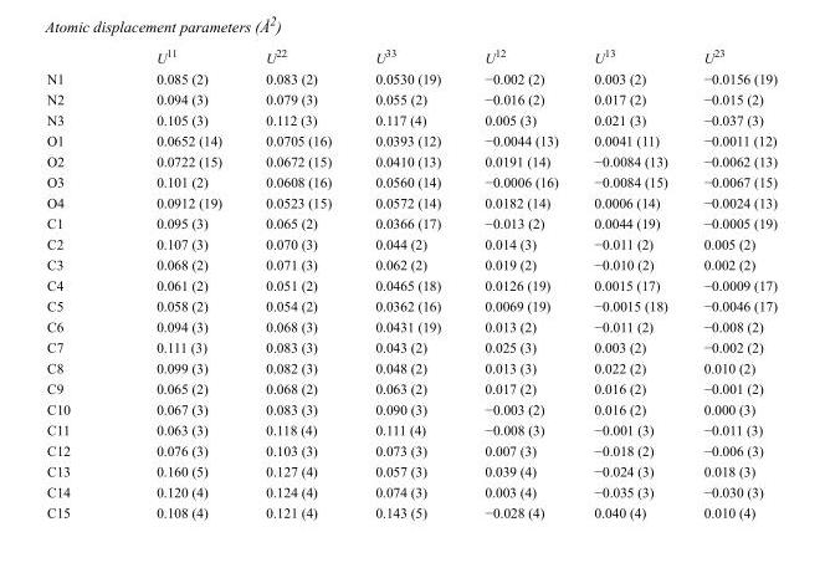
<table><thead><tr><td></td><td>U<sup>11</sup></td><td>U<sup>22</sup></td><td>U<sup>33</sup></td><td>U<sup>12</sup></td><td>U<sup>13</sup></td><td>U<sup>23</sup></td></tr></thead><tbody><tr><td>N1</td><td>0.085 (2)</td><td>0.083 (2)</td><td>0.0530 (19)</td><td>−0.002 (2)</td><td>0.003 (2)</td><td>−0.0156 (19)</td></tr><tr><td>N2</td><td>0.094 (3)</td><td>0.079 (3)</td><td>0.055 (2)</td><td>−0.016 (2)</td><td>0.017 (2)</td><td>−0.015 (2)</td></tr><tr><td>N3</td><td>0.105 (3)</td><td>0.112 (3)</td><td>0.117 (4)</td><td>0.005 (3)</td><td>0.021 (3)</td><td>−0.037 (3)</td></tr><tr><td>O1</td><td>0.0652 (14)</td><td>0.0705 (16)</td><td>0.0393 (12)</td><td>−0.0044 (13)</td><td>0.0041 (11)</td><td>−0.0011 (12)</td></tr><tr><td>O2</td><td>0.0722 (15)</td><td>0.0672 (15)</td><td>0.0410 (13)</td><td>0.0191 (14)</td><td>−0.0084 (13)</td><td>−0.0062 (13)</td></tr><tr><td>O3</td><td>0.101 (2)</td><td>0.0608 (16)</td><td>0.0560 (14)</td><td>−0.0006 (16)</td><td>−0.0084 (15)</td><td>−0.0067 (15)</td></tr><tr><td>O4</td><td>0.0912 (19)</td><td>0.0523 (15)</td><td>0.0572 (14)</td><td>0.0182 (14)</td><td>0.0006 (14)</td><td>−0.0024 (13)</td></tr><tr><td>C1</td><td>0.095 (3)</td><td>0.065 (2)</td><td>0.0366 (17)</td><td>−0.013 (2)</td><td>0.0044 (19)</td><td>−0.0005 (19)</td></tr><tr><td>C2</td><td>0.107 (3)</td><td>0.070 (3)</td><td>0.044 (2)</td><td>0.014 (3)</td><td>−0.011 (2)</td><td>0.005 (2)</td></tr><tr><td>C3</td><td>0.068 (2)</td><td>0.071 (3)</td><td>0.062 (2)</td><td>0.019 (2)</td><td>−0.010 (2)</td><td>0.002 (2)</td></tr><tr><td>C4</td><td>0.061 (2)</td><td>0.051 (2)</td><td>0.0465 (18)</td><td>0.0126 (19)</td><td>0.0015 (17)</td><td>−0.0009 (17)</td></tr><tr><td>C5</td><td>0.058 (2)</td><td>0.054 (2)</td><td>0.0362 (16)</td><td>0.0069 (19)</td><td>−0.0015 (18)</td><td>−0.0046 (17)</td></tr><tr><td>C6</td><td>0.094 (3)</td><td>0.068 (3)</td><td>0.0431 (19)</td><td>0.013 (2)</td><td>−0.011 (2)</td><td>−0.008 (2)</td></tr><tr><td>C7</td><td>0.111 (3)</td><td>0.083 (3)</td><td>0.043 (2)</td><td>0.025 (3)</td><td>0.003 (2)</td><td>−0.002 (2)</td></tr><tr><td>C8</td><td>0.099 (3)</td><td>0.082 (3)</td><td>0.048 (2)</td><td>0.013 (3)</td><td>0.022 (2)</td><td>0.010 (2)</td></tr><tr><td>C9</td><td>0.065 (2)</td><td>0.068 (2)</td><td>0.063 (2)</td><td>0.017 (2)</td><td>0.016 (2)</td><td>−0.001 (2)</td></tr><tr><td>C10</td><td>0.067 (3)</td><td>0.083 (3)</td><td>0.090 (3)</td><td>−0.003 (2)</td><td>0.016 (2)</td><td>0.000 (3)</td></tr><tr><td>C11</td><td>0.063 (3)</td><td>0.118 (4)</td><td>0.111 (4)</td><td>−0.008 (3)</td><td>−0.001 (3)</td><td>−0.011 (3)</td></tr><tr><td>C12</td><td>0.076 (3)</td><td>0.103 (3)</td><td>0.073 (3)</td><td>0.007 (3)</td><td>−0.018 (2)</td><td>−0.006 (3)</td></tr><tr><td>C13</td><td>0.160 (5)</td><td>0.127 (4)</td><td>0.057 (3)</td><td>0.039 (4)</td><td>−0.024 (3)</td><td>0.018 (3)</td></tr><tr><td>C14</td><td>0.120 (4)</td><td>0.124 (4)</td><td>0.074 (3)</td><td>0.003 (4)</td><td>−0.035 (3)</td><td>−0.030 (3)</td></tr><tr><td>C15</td><td>0.108 (4)</td><td>0.121 (4)</td><td>0.143 (5)</td><td>−0.028 (4)</td><td>0.040 (4)</td><td>0.010 (4)</td></tr></tbody></table>